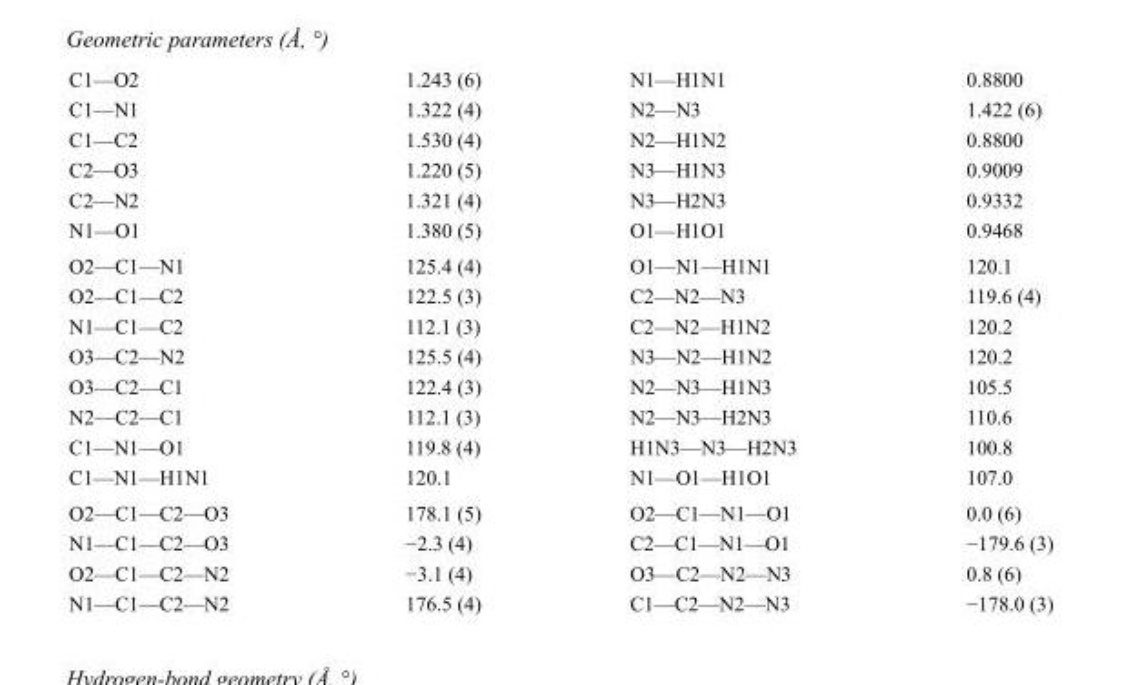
<table><tbody><tr><td>C1—O2</td><td>1.243 (6)</td><td>N1—H1N1</td><td>0.8800</td></tr><tr><td>C1—N1</td><td>1.322 (4)</td><td>N2—N3</td><td>1.422 (6)</td></tr><tr><td>C1—C2</td><td>1.530 (4)</td><td>N2—H1N2</td><td>0.8800</td></tr><tr><td>C2—O3</td><td>1.220 (5)</td><td>N3—H1N3</td><td>0.9009</td></tr><tr><td>C2—N2</td><td>1.321 (4)</td><td>N3—H2N3</td><td>0.9332</td></tr><tr><td>N1—O1</td><td>1.380 (5)</td><td>O1—H1O1</td><td>0.9468</td></tr><tr><td>O2—C1—N1</td><td>125.4 (4)</td><td>O1—N1—H1N1</td><td>120.1</td></tr><tr><td>O2—C1—C2</td><td>122.5 (3)</td><td>C2—N2—N3</td><td>119.6 (4)</td></tr><tr><td>N1—C1—C2</td><td>112.1 (3)</td><td>C2—N2—H1N2</td><td>120.2</td></tr><tr><td>O3—C2—N2</td><td>125.5 (4)</td><td>N3—N2—H1N2</td><td>120.2</td></tr><tr><td>O3—C2—C1</td><td>122.4 (3)</td><td>N2—N3—H1N3</td><td>105.5</td></tr><tr><td>N2—C2—C1</td><td>112.1 (3)</td><td>N2—N3—H2N3</td><td>110.6</td></tr><tr><td>C1—N1—O1</td><td>119.8 (4)</td><td>H1N3—N3—H2N3</td><td>100.8</td></tr><tr><td>C1—N1—H1N1</td><td>120.1</td><td>N1—O1—H1O1</td><td>107.0</td></tr><tr><td>O2—C1—C2—O3</td><td>178.1 (5)</td><td>O2—C1—N1—O1</td><td>0.0 (6)</td></tr><tr><td>N1—C1—C2—O3</td><td>−2.3 (4)</td><td>C2—C1—N1—O1</td><td>−179.6 (3)</td></tr><tr><td>O2—C1—C2—N2</td><td>−3.1 (4)</td><td>O3—C2—N2—N3</td><td>0.8 (6)</td></tr><tr><td>N1—C1—C2—N2</td><td>176.5 (4)</td><td>C1—C2—N2—N3</td><td>−178.0 (3)</td></tr></tbody></table>